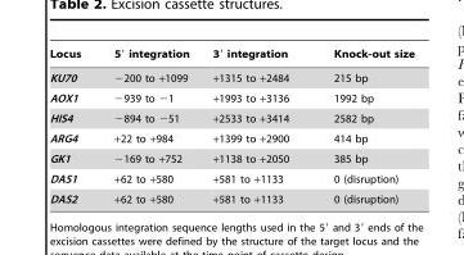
<table><thead><tr><td>Locus</td><td>5′ integration</td><td>3′ integration</td><td>Knock-out size</td></tr></thead><tbody><tr><td>KU70</td><td>−200 to +1099</td><td>+1315 to +2484</td><td>215 bp</td></tr><tr><td>AOX1</td><td>−939 to −1</td><td>+1993 to +3136</td><td>1992 bp</td></tr><tr><td>HIS4</td><td>−894 to −51</td><td>+2533 to +3414</td><td>2582 bp</td></tr><tr><td>ARG4</td><td>+22 to +984</td><td>+1399 to +2900</td><td>414 bp</td></tr><tr><td>GK1</td><td>−169 to +752</td><td>+1138 to +2050</td><td>385 bp</td></tr><tr><td>DAS1</td><td>+62 to +580</td><td>+581 to +1133</td><td>0 (disruption)</td></tr><tr><td>DAS2</td><td>+62 to +580</td><td>+581 to +1133</td><td>0 (disruption)</td></tr></tbody></table>